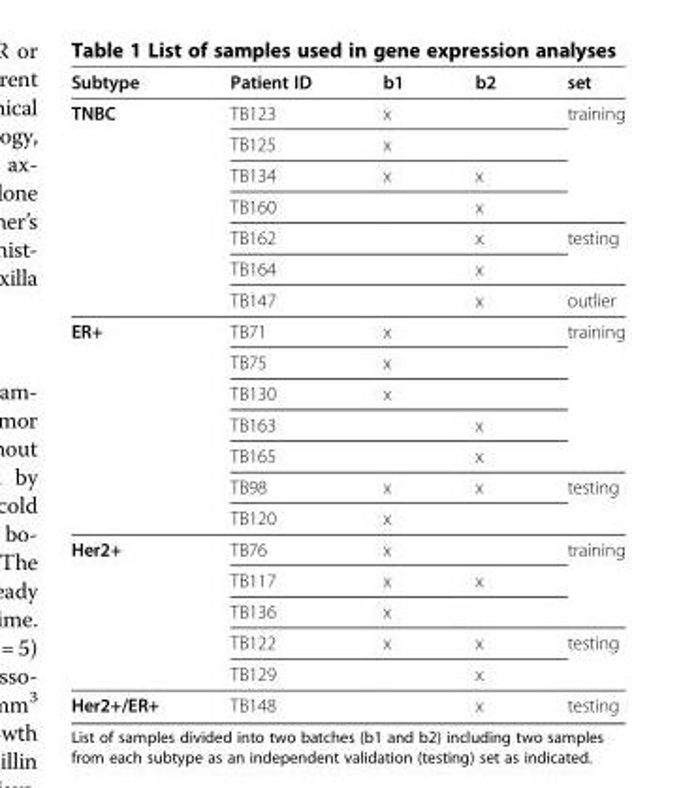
<table><thead><tr><td>Subtype</td><td>Patient ID</td><td>b1</td><td>b2</td><td>set</td></tr></thead><tbody><tr><td rowspan="7">TNBC</td><td>TB123</td><td>x</td><td></td><td rowspan="4">training</td></tr><tr><td>TB125</td><td>x</td><td></td></tr><tr><td>TB134</td><td>x</td><td>x</td></tr><tr><td>TB160</td><td></td><td>x</td></tr><tr><td>TB162</td><td></td><td>x</td><td rowspan="2">testing</td></tr><tr><td>TB164</td><td></td><td>x</td></tr><tr><td>TB147</td><td></td><td>x</td><td>outlier</td></tr><tr><td rowspan="7">ER+</td><td>TB71</td><td>x</td><td></td><td rowspan="5">training</td></tr><tr><td>TB75</td><td>x</td><td></td></tr><tr><td>TB130</td><td>x</td><td></td></tr><tr><td>TB163</td><td></td><td>x</td></tr><tr><td>TB165</td><td></td><td>x</td></tr><tr><td>TB98</td><td>x</td><td>x</td><td rowspan="2">testing</td></tr><tr><td>TB120</td><td>x</td><td></td></tr><tr><td rowspan="5">Her2+</td><td>TB76</td><td>x</td><td></td><td rowspan="3">training</td></tr><tr><td>TB117</td><td>x</td><td>x</td></tr><tr><td>TB136</td><td>x</td><td></td></tr><tr><td>TB122</td><td>x</td><td>x</td><td rowspan="2">testing</td></tr><tr><td>TB129</td><td></td><td>x</td></tr><tr><td>Her2+/ER+</td><td>TB148</td><td></td><td>x</td><td>testing</td></tr></tbody></table>